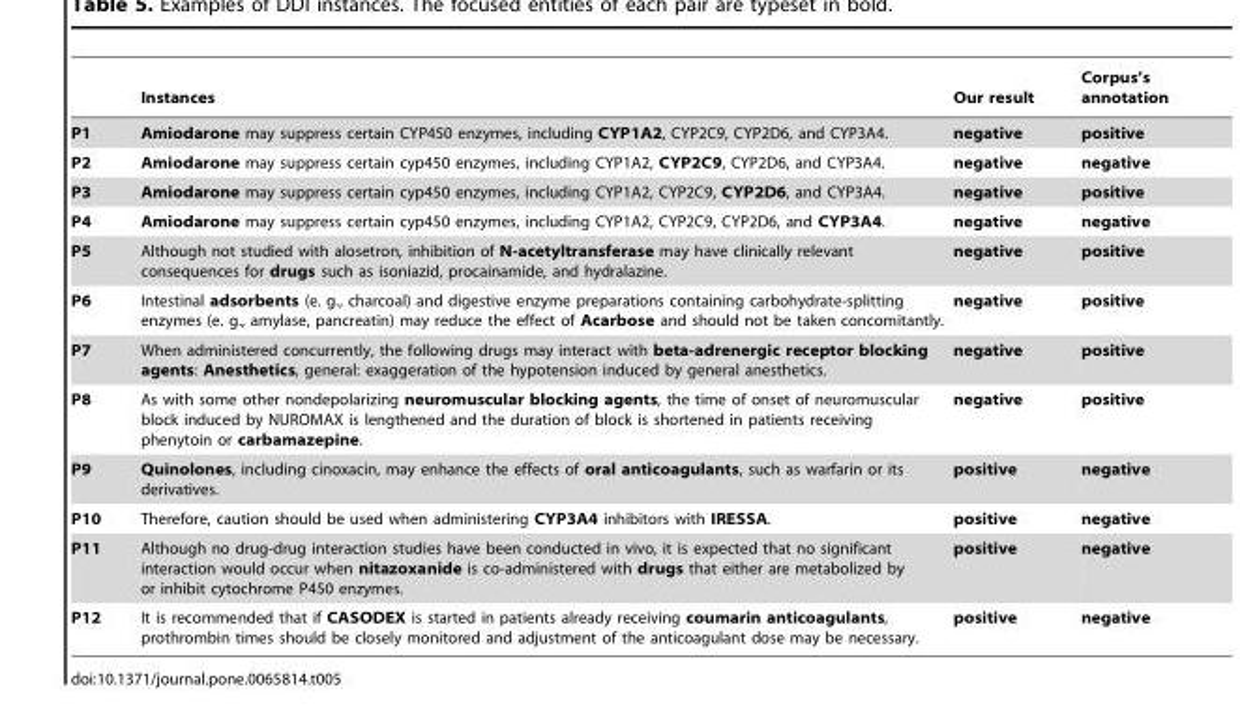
<table><thead><tr><td></td><td>Instances</td><td>Our result</td><td>Corpus’s annotation</td></tr></thead><tbody><tr><td>P1</td><td>Amiodarone may suppress certain CYP450 enzymes, including CYP1A2, CYP2C9, CYP2D6, and CYP3A4.</td><td>negative</td><td>positive</td></tr><tr><td>P2</td><td>Amiodarone may suppress certain cyp450 enzymes, including CYP1A2, CYP2C9, CYP2D6, and CYP3A4.</td><td>negative</td><td>negative</td></tr><tr><td>P3</td><td>Amiodarone may suppress certain cyp450 enzymes, including CYP1A2, CYP2C9, CYP2D6, and CYP3A4.</td><td>negative</td><td>positive</td></tr><tr><td>P4</td><td>Amiodarone may suppress certain cyp450 enzymes, including CYP1A2, CYP2C9, CYP2D6, and CYP3A4.</td><td>negative</td><td>negative</td></tr><tr><td>P5</td><td>Although not studied with alosetron, inhibition of N-acetyltransferase may have clinically relevant consequences for drugs such as isoniazid, procainamide, and hydralazine.</td><td>negative</td><td>positive</td></tr><tr><td>P6</td><td>Intestinal adsorbents (e. g., charcoal) and digestive enzyme preparations containing carbohydrate-splitting enzymes (e. g., amylase, pancreatin) may reduce the effect of Acarbose and should not be taken concomitantly.</td><td>negative</td><td>positive</td></tr><tr><td>P7</td><td>When administered concurrently, the following drugs may interact with beta-adrenergic receptor blocking agents: Anesthetics, general: exaggeration of the hypotension induced by general anesthetics.</td><td>negative</td><td>positive</td></tr><tr><td>P8</td><td>As with some other nondepolarizing neuromuscular blocking agents, the time of onset of neuromuscular block induced by NUROMAX is lengthened and the duration of block is shortened in patients receiving phenytoin or carbamazepine.</td><td>negative</td><td>positive</td></tr><tr><td>P9</td><td>Quinolones, including cinoxacin, may enhance the effects of oral anticoagulants, such as warfarin or its derivatives.</td><td>positive</td><td>negative</td></tr><tr><td>P10</td><td>Therefore, caution should be used when administering CYP3A4 inhibitors with IRESSA.</td><td>positive</td><td>negative</td></tr><tr><td>P11</td><td>Although no drug-drug interaction studies have been conducted in vivo, it is expected that no significant interaction would occur when nitazoxanide is co-administered with drugs that either are metabolized by or inhibit cytochrome P450 enzymes.</td><td>positive</td><td>negative</td></tr><tr><td>P12</td><td>It is recommended that if CASODEX is started in patients already receiving coumarin anticoagulants, prothrombin times should be closely monitored and adjustment of the anticoagulant dose may be necessary.</td><td>positive</td><td>negative</td></tr></tbody></table>